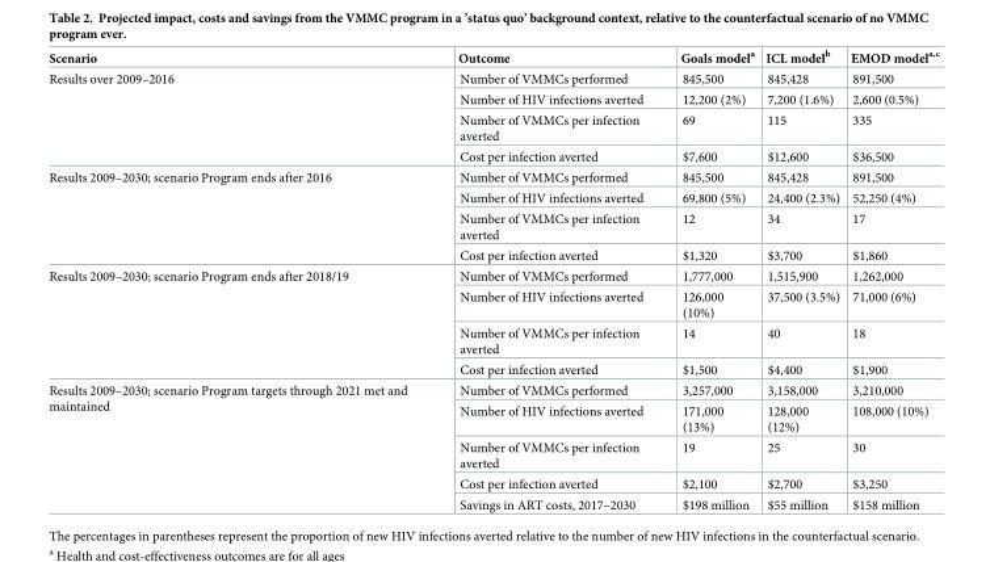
<table><thead><tr><td>Scenario</td><td>Outcome</td><td>Goals model<sup>a</sup></td><td>ICL model<sup>b</sup></td><td>EMOD model<sup>a,c</sup></td></tr></thead><tbody><tr><td rowspan="4">Results over 2009–2016</td><td>Number of VMMCs performed</td><td>845,500</td><td>845,428</td><td>891,500</td></tr><tr><td>Number of HIV infections averted</td><td>12,200 (2%)</td><td>7,200 (1.6%)</td><td>2,600 (0.5%)</td></tr><tr><td>Number of VMMCs per infection averted</td><td>69</td><td>115</td><td>335</td></tr><tr><td>Cost per infection averted</td><td>$7,600</td><td>$12,600</td><td>$36,500</td></tr><tr><td rowspan="4">Results 2009–2030; scenario Program ends after 2016</td><td>Number of VMMCs performed</td><td>845,500</td><td>845,428</td><td>891,500</td></tr><tr><td>Number of HIV infections averted</td><td>69,800 (5%)</td><td>24,400 (2.3%)</td><td>52,250 (4%)</td></tr><tr><td>Number of VMMCs per infection averted</td><td>12</td><td>34</td><td>17</td></tr><tr><td>Cost per infection averted</td><td>$1,320</td><td>$3,700</td><td>$1,860</td></tr><tr><td rowspan="4">Results 2009–2030; scenario Program ends after 2018/19</td><td>Number of VMMCs performed</td><td>1,777,000</td><td>1,515,900</td><td>1,262,000</td></tr><tr><td>Number of HIV infections averted</td><td>126,000 (10%)</td><td>37,500 (3.5%)</td><td>71,000 (6%)</td></tr><tr><td>Number of VMMCs per infection averted</td><td>14</td><td>40</td><td>18</td></tr><tr><td>Cost per infection averted</td><td>$1,500</td><td>$4,400</td><td>$1,900</td></tr><tr><td rowspan="5">Results 2009–2030; scenario Program targets through 2021 met and maintained</td><td>Number of VMMCs performed</td><td>3,257,000</td><td>3,158,000</td><td>3,210,000</td></tr><tr><td>Number of HIV infections averted</td><td>171,000 (13%)</td><td>128,000 (12%)</td><td>108,000 (10%)</td></tr><tr><td>Number of VMMCs per infection averted</td><td>19</td><td>25</td><td>30</td></tr><tr><td>Cost per infection averted</td><td>$2,100</td><td>$2,700</td><td>$3,250</td></tr><tr><td>Savings in ART costs, 2017–2030</td><td>$198 million</td><td>$55 million</td><td>$158 million</td></tr></tbody></table>